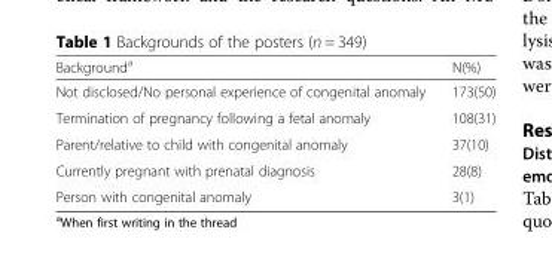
<table><thead><tr><td>Background<sup>a</sup></td><td>N(%)</td></tr></thead><tbody><tr><td>Not disclosed/No personal experience of congenital anomaly</td><td>173(50)</td></tr><tr><td>Termination of pregnancy following a fetal anomaly</td><td>108(31)</td></tr><tr><td>Parent/relative to child with congenital anomaly</td><td>37(10)</td></tr><tr><td>Currently pregnant with prenatal diagnosis</td><td>28(8)</td></tr><tr><td>Person with congenital anomaly</td><td>3(1)</td></tr></tbody></table>